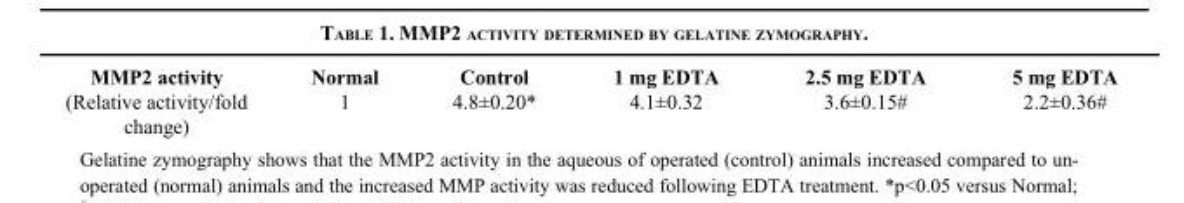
<table><thead><tr><td>MMP2 activity</td><td>Normal</td><td>Control</td><td>1 mg EDTA</td><td>2.5 mg EDTA</td><td>5 mg EDTA</td></tr></thead><tbody><tr><td>(Relative activity/fold change)</td><td>1</td><td>4.8±0.20*</td><td>4.1±0.32</td><td>3.6±0.15#</td><td>2.2±0.36#</td></tr></tbody></table>